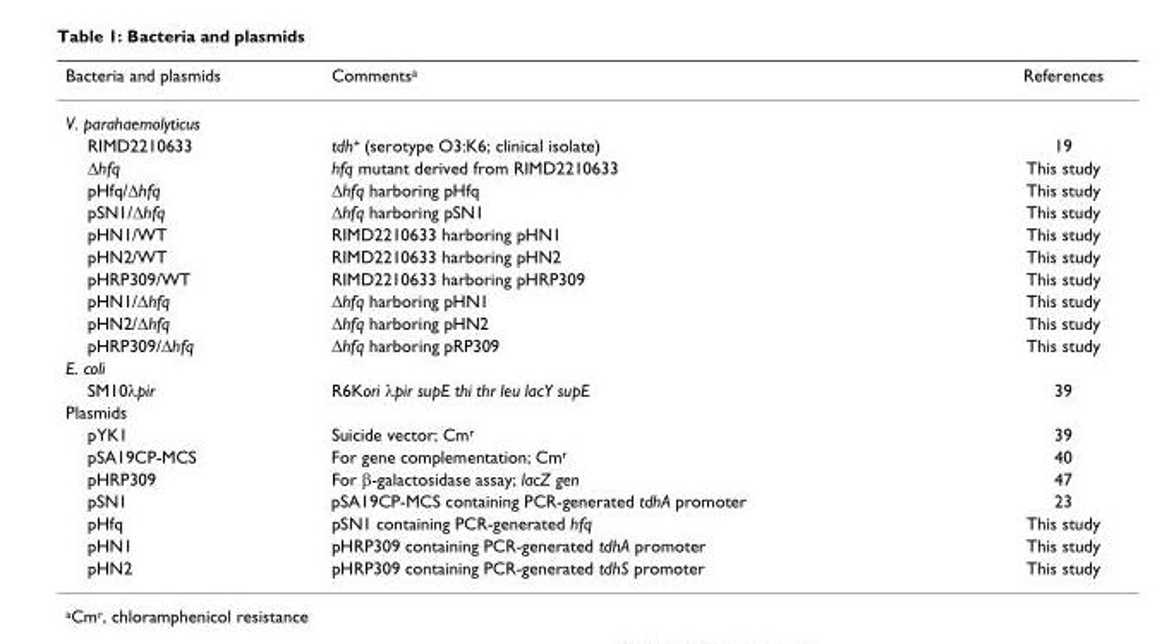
<table><thead><tr><td>Bacteria and plasmids</td><td>Comments<sup>a</sup></td><td>References</td></tr></thead><tbody><tr><td colspan="3">V. parahaemolyticus</td></tr><tr><td>RIMD2210633</td><td>tdh<sup>+</sup> (serotype O3:K6; clinical isolate)</td><td>19</td></tr><tr><td>Δhfq</td><td>hfq mutant derived from RIMD2210633</td><td>This study</td></tr><tr><td>pHfq/Δhfq</td><td>Δhfq harboring pHfq</td><td>This study</td></tr><tr><td>pSN1/Δhfq</td><td>Δhfq harboring pSN1</td><td>This study</td></tr><tr><td>pHN1/WT</td><td>RIMD2210633 harboring pHN1</td><td>This study</td></tr><tr><td>pHN2/WT</td><td>RIMD2210633 harboring pHN2</td><td>This study</td></tr><tr><td>pHRP309/WT</td><td>RIMD2210633 harboring pHRP309</td><td>This study</td></tr><tr><td>pHN1/Δhfq</td><td>Δhfq harboring pHN1</td><td>This study</td></tr><tr><td>pHN2/Δhfq</td><td>Δhfq harboring pHN2</td><td>This study</td></tr><tr><td>pHRP309/Δhfq</td><td>Δhfq harboring pRP309</td><td>This study</td></tr><tr><td colspan="3">E. coli</td></tr><tr><td>SM10λpir</td><td>R6Kori λpir supE thi thr leu lacY supE</td><td>39</td></tr><tr><td colspan="3">Plasmids</td></tr><tr><td>pYK1</td><td>Suicide vector; Cm<sup>r</sup></td><td>39</td></tr><tr><td>pSA19CP-MCS</td><td>For gene complementation; Cm<sup>r</sup></td><td>40</td></tr><tr><td>pHRP309</td><td>For β-galactosidase assay; lacZ gen</td><td>47</td></tr><tr><td>pSN1</td><td>pSA19CP-MCS containing PCR-generated tdhA promoter</td><td>23</td></tr><tr><td>pHfq</td><td>pSN1 containing PCR-generated hfq</td><td>This study</td></tr><tr><td>pHN1</td><td>pHRP309 containing PCR-generated tdhA promoter</td><td>This study</td></tr><tr><td>pHN2</td><td>pHRP309 containing PCR-generated tdhS promoter</td><td>This study</td></tr></tbody></table>